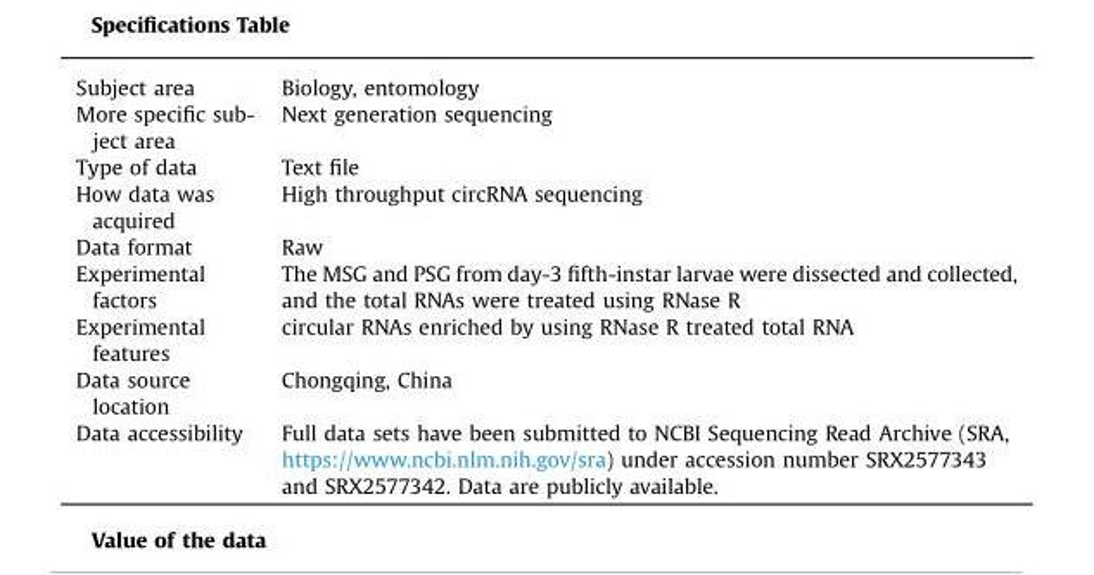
<table><tbody><tr><td>Subject area</td><td>Biology, entomology</td></tr><tr><td>More specific sub- ject area</td><td>Next generation sequencing</td></tr><tr><td>Type of data</td><td>Text file</td></tr><tr><td>How data was acquired</td><td>High throughput circRNA sequencing</td></tr><tr><td>Data format</td><td>Raw</td></tr><tr><td>Experimental factors</td><td>The MSG and PSG from day-3 fifth-instar larvae were dissected and collected, and the total RNAs were treated using RNase R</td></tr><tr><td>Experimental features</td><td>circular RNAs enriched by using RNase R treated total RNA</td></tr><tr><td>Data source location</td><td>Chongqing, China</td></tr><tr><td>Data accessibility</td><td>Full data sets have been submitted to NCBI Sequencing Read Archive (SRA, https://www.ncbi.nlm.nih.gov/sra) under accession number SRX2577343 and SRX2577342. Data are publicly available.</td></tr></tbody></table>